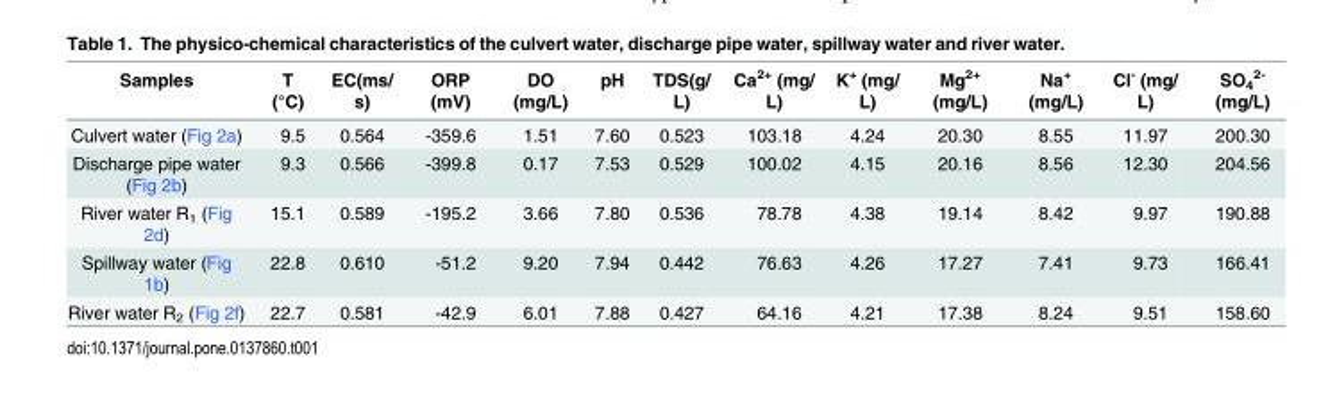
<table><thead><tr><td>Samples</td><td>T (°C)</td><td>EC(ms/ s)</td><td>ORP (mV)</td><td>DO (mg/L)</td><td>pH</td><td>TDS(g/ L)</td><td>Ca<sup>2+</sup> (mg/ L)</td><td>K<sup>+</sup> (mg/ L)</td><td>Mg<sup>2+</sup> (mg/L)</td><td>Na<sup>+</sup> (mg/L)</td><td>Cl<sup>-</sup> (mg/ L)</td><td>SO<sub>4</sub> <sup>2-</sup> (mg/L)</td></tr></thead><tbody><tr><td>Culvert water (Fig 2a)</td><td>9.5</td><td>0.564</td><td>-359.6</td><td>1.51</td><td>7.60</td><td>0.523</td><td>103.18</td><td>4.24</td><td>20.30</td><td>8.55</td><td>11.97</td><td>200.30</td></tr><tr><td>Discharge pipe water (Fig 2b)</td><td>9.3</td><td>0.566</td><td>-399.8</td><td>0.17</td><td>7.53</td><td>0.529</td><td>100.02</td><td>4.15</td><td>20.16</td><td>8.56</td><td>12.30</td><td>204.56</td></tr><tr><td>River water R<sub>1</sub> (Fig 2d)</td><td>15.1</td><td>0.589</td><td>-195.2</td><td>3.66</td><td>7.80</td><td>0.536</td><td>78.78</td><td>4.38</td><td>19.14</td><td>8.42</td><td>9.97</td><td>190.88</td></tr><tr><td>Spillway water (Fig 1b)</td><td>22.8</td><td>0.610</td><td>-51.2</td><td>9.20</td><td>7.94</td><td>0.442</td><td>76.63</td><td>4.26</td><td>17.27</td><td>7.41</td><td>9.73</td><td>166.41</td></tr><tr><td>River water R<sub>2</sub> (Fig 2f)</td><td>22.7</td><td>0.581</td><td>-42.9</td><td>6.01</td><td>7.88</td><td>0.427</td><td>64.16</td><td>4.21</td><td>17.38</td><td>8.24</td><td>9.51</td><td>158.60</td></tr></tbody></table>